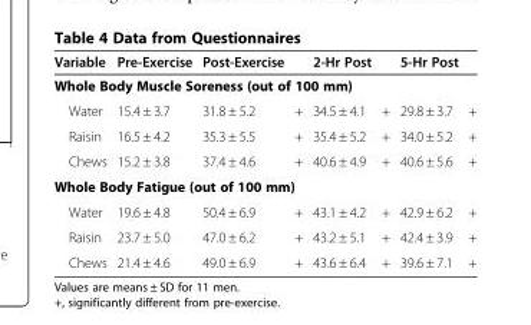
<table><thead><tr><td>Variable</td><td>Pre-Exercise</td><td>Post-Exercise</td><td></td><td>2-Hr Post</td><td></td><td>5-Hr Post</td><td></td></tr></thead><tbody><tr><td colspan="8">Whole Body Muscle Soreness (out of 100 mm)</td></tr><tr><td>Water</td><td>15.4 ± 3.7</td><td>31.8 ± 5.2</td><td>+</td><td>34.5 ± 4.1</td><td>+</td><td>29.8 ± 3.7</td><td>+</td></tr><tr><td>Raisin</td><td>16.5 ± 4.2</td><td>35.3 ± 5.5</td><td>+</td><td>35.4 ± 5.2</td><td>+</td><td>34.0 ± 5.2</td><td>+</td></tr><tr><td>Chews</td><td>15.2 ± 3.8</td><td>37.4 ± 4.6</td><td>+</td><td>40.6 ± 4.9</td><td>+</td><td>40.6 ± 5.6</td><td>+</td></tr><tr><td colspan="8">Whole Body Fatigue (out of 100 mm)</td></tr><tr><td>Water</td><td>19.6 ± 4.8</td><td>50.4 ± 6.9</td><td>+</td><td>43.1 ± 4.2</td><td>+</td><td>42.9 ± 6.2</td><td>+</td></tr><tr><td>Raisin</td><td>23.7 ± 5.0</td><td>47.0 ± 6.2</td><td>+</td><td>43.2 ± 5.1</td><td>+</td><td>42.4 ± 3.9</td><td>+</td></tr><tr><td>Chews</td><td>21.4 ± 4.6</td><td>49.0 ± 6.9</td><td>+</td><td>43.6 ± 6.4</td><td>+</td><td>39.6 ± 7.1</td><td>+</td></tr></tbody></table>